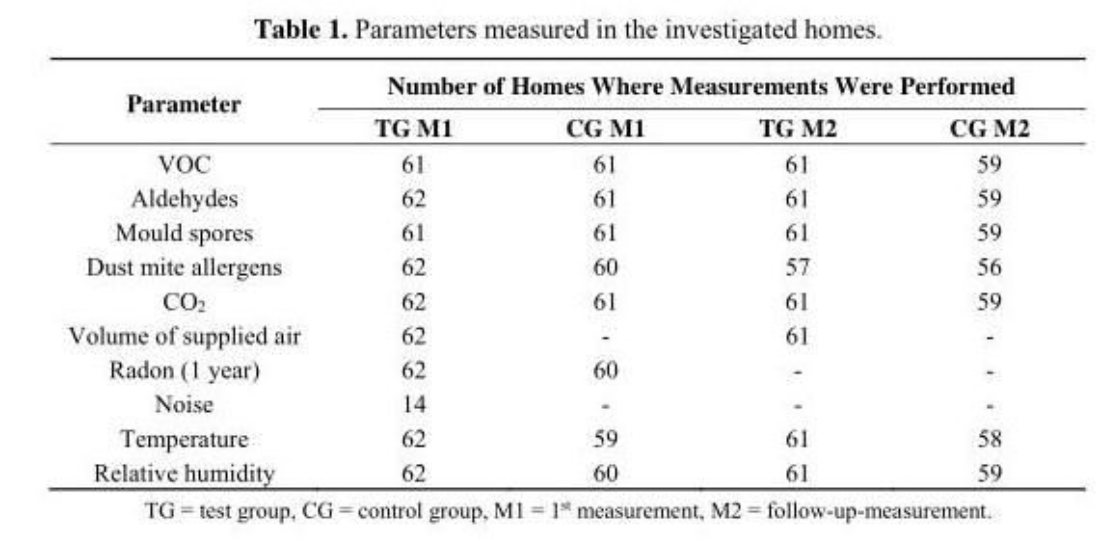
<table><thead><tr><td rowspan="2">Parameter</td><td colspan="4">Number of Homes Where Measurements Were Performed</td></tr><tr><td>TG M1</td><td>CG M1</td><td>TG M2</td><td>CG M2</td></tr></thead><tbody><tr><td>VOC</td><td>61</td><td>61</td><td>61</td><td>59</td></tr><tr><td>Aldehydes</td><td>62</td><td>61</td><td>61</td><td>59</td></tr><tr><td>Mould spores</td><td>61</td><td>61</td><td>61</td><td>59</td></tr><tr><td>Dust mite allergens</td><td>62</td><td>60</td><td>57</td><td>56</td></tr><tr><td>CO<sub>2</sub></td><td>62</td><td>61</td><td>61</td><td>59</td></tr><tr><td>Volume of supplied air</td><td>62</td><td>-</td><td>61</td><td>-</td></tr><tr><td>Radon (1 year)</td><td>62</td><td>60</td><td>-</td><td>-</td></tr><tr><td>Noise</td><td>14</td><td>-</td><td>-</td><td>-</td></tr><tr><td>Temperature</td><td>62</td><td>59</td><td>61</td><td>58</td></tr><tr><td>Relative humidity</td><td>62</td><td>60</td><td>61</td><td>59</td></tr></tbody></table>